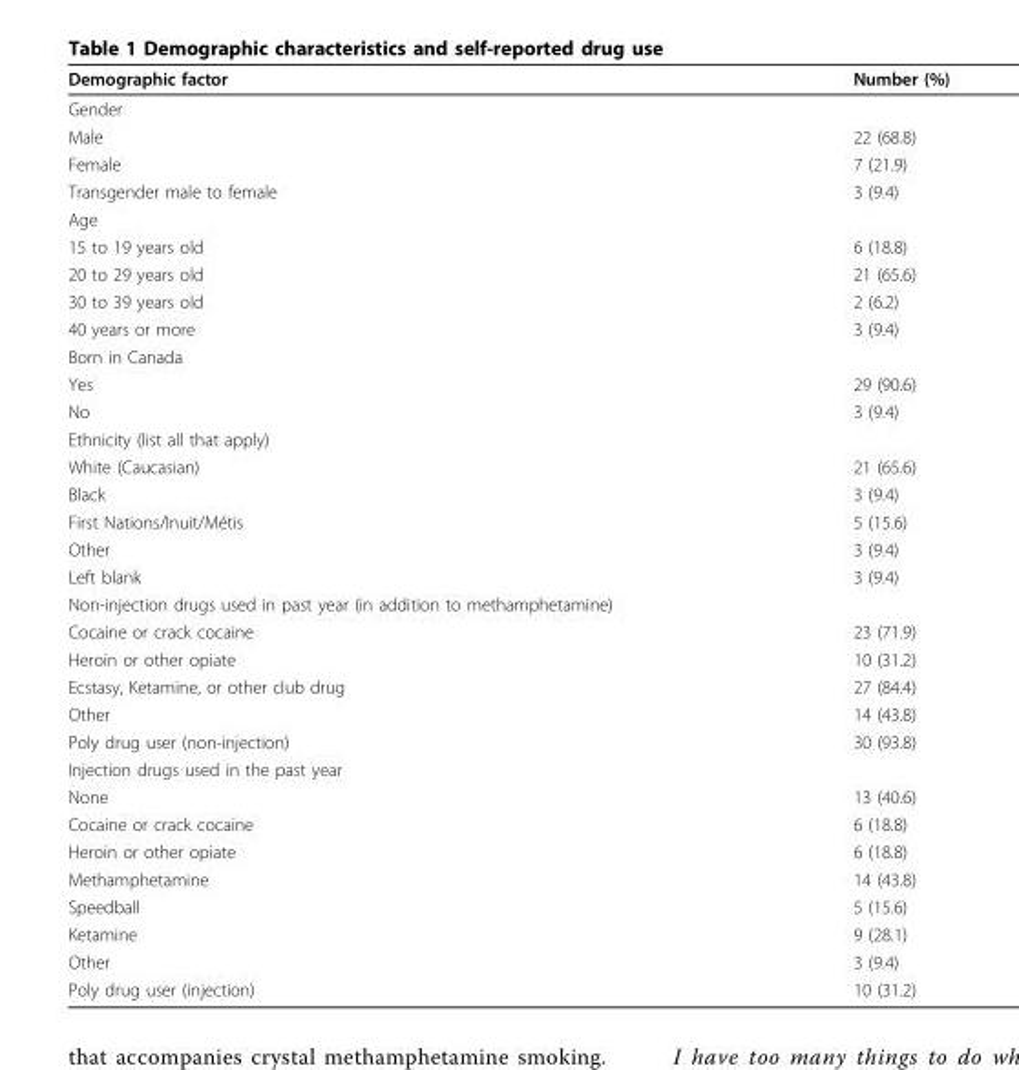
<table><thead><tr><td>Demographic factor</td><td>Number (%)</td></tr></thead><tbody><tr><td colspan="2">Gender</td></tr><tr><td>Male</td><td>22 (68.8)</td></tr><tr><td>Female</td><td>7 (21.9)</td></tr><tr><td>Transgender male to female</td><td>3 (9.4)</td></tr><tr><td colspan="2">Age</td></tr><tr><td>15 to 19 years old</td><td>6 (18.8)</td></tr><tr><td>20 to 29 years old</td><td>21 (65.6)</td></tr><tr><td>30 to 39 years old</td><td>2 (6.2)</td></tr><tr><td>40 years or more</td><td>3 (9.4)</td></tr><tr><td colspan="2">Born in Canada</td></tr><tr><td>Yes</td><td>29 (90.6)</td></tr><tr><td>No</td><td>3 (9.4)</td></tr><tr><td colspan="2">Ethnicity (list all that apply)</td></tr><tr><td>White (Caucasian)</td><td>21 (65.6)</td></tr><tr><td>Black</td><td>3 (9.4)</td></tr><tr><td>First Nations/Inuit/Métis</td><td>5 (15.6)</td></tr><tr><td>Other</td><td>3 (9.4)</td></tr><tr><td>Left blank</td><td>3 (9.4)</td></tr><tr><td colspan="2">Non-injection drugs used in past year (in addition to methamphetamine)</td></tr><tr><td>Cocaine or crack cocaine</td><td>23 (71.9)</td></tr><tr><td>Heroin or other opiate</td><td>10 (31.2)</td></tr><tr><td>Ecstasy, Ketamine, or other club drug</td><td>27 (84.4)</td></tr><tr><td>Other</td><td>14 (43.8)</td></tr><tr><td>Poly drug user (non-injection)</td><td>30 (93.8)</td></tr><tr><td colspan="2">Injection drugs used in the past year</td></tr><tr><td>None</td><td>13 (40.6)</td></tr><tr><td>Cocaine or crack cocaine</td><td>6 (18.8)</td></tr><tr><td>Heroin or other opiate</td><td>6 (18.8)</td></tr><tr><td>Methamphetamine</td><td>14 (43.8)</td></tr><tr><td>Speedball</td><td>5 (15.6)</td></tr><tr><td>Ketamine</td><td>9 (28.1)</td></tr><tr><td>Other</td><td>3 (9.4)</td></tr><tr><td>Poly drug user (injection)</td><td>10 (31.2)</td></tr></tbody></table>